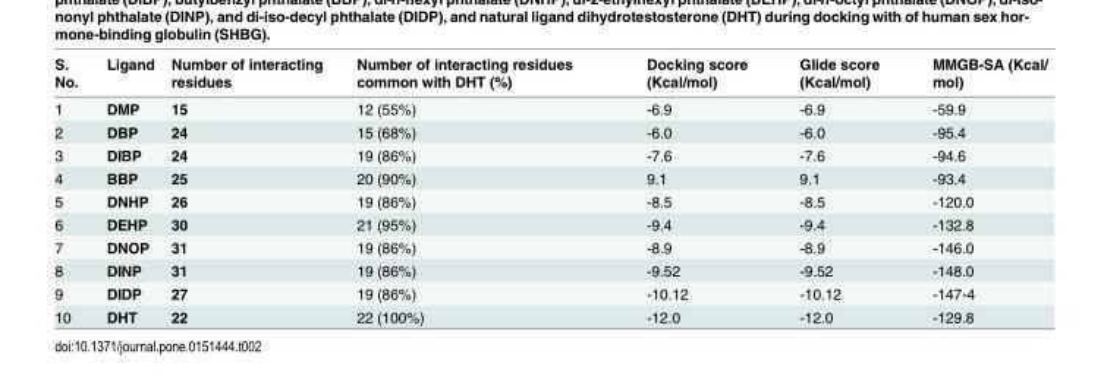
<table><thead><tr><td>S. No.</td><td>Ligand</td><td>Number of interacting residues</td><td>Number of interacting residues common with DHT (%)</td><td>Docking score (Kcal/mol)</td><td>Glide score (Kcal/mol)</td><td>MMGB-SA (Kcal/ mol)</td></tr></thead><tbody><tr><td>1</td><td>DMP</td><td>15</td><td>12 (55%)</td><td>-6.9</td><td>-6.9</td><td>-59.9</td></tr><tr><td>2</td><td>DBP</td><td>24</td><td>15 (68%)</td><td>-6.0</td><td>-6.0</td><td>-95.4</td></tr><tr><td>3</td><td>DIBP</td><td>24</td><td>19 (86%)</td><td>-7.6</td><td>-7.6</td><td>-94.6</td></tr><tr><td>4</td><td>BBP</td><td>25</td><td>20 (90%)</td><td>9.1</td><td>9.1</td><td>-93.4</td></tr><tr><td>5</td><td>DNHP</td><td>26</td><td>19 (86%)</td><td>-8.5</td><td>-8.5</td><td>-120.0</td></tr><tr><td>6</td><td>DEHP</td><td>30</td><td>21 (95%)</td><td>-9.4</td><td>-9.4</td><td>-132.8</td></tr><tr><td>7</td><td>DNOP</td><td>31</td><td>19 (86%)</td><td>-8.9</td><td>-8.9</td><td>-146.0</td></tr><tr><td>8</td><td>DINP</td><td>31</td><td>19 (86%)</td><td>-9.52</td><td>-9.52</td><td>-148.0</td></tr><tr><td>9</td><td>DIDP</td><td>27</td><td>19 (86%)</td><td>-10.12</td><td>-10.12</td><td>-147-4</td></tr><tr><td>10</td><td>DHT</td><td>22</td><td>22 (100%)</td><td>-12.0</td><td>-12.0</td><td>-129.8</td></tr></tbody></table>